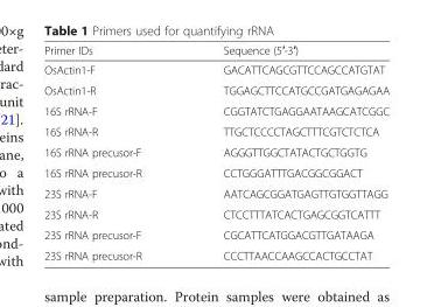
<table><thead><tr><td>Primer IDs</td><td>Sequence (5′-3′)</td></tr></thead><tbody><tr><td>OsActin1-F</td><td>GACATTCAGCGTTCCAGCCATGTAT</td></tr><tr><td>OsActin1-R</td><td>TGGAGCTTCCATGCCGATGAGAGAA</td></tr><tr><td>16S rRNA-F</td><td>CGGTATCTGAGGAATAAGCATCGGC</td></tr><tr><td>16S rRNA-R</td><td>TTGCTCCCCTAGCTTTCGTCTCTCA</td></tr><tr><td>16S rRNA precusor-F</td><td>AGGGTTGGCTATACTGCTGGTG</td></tr><tr><td>16S rRNA precusor-R</td><td>CCTGGGATTTGACGGCGGACT</td></tr><tr><td>23S rRNA-F</td><td>AATCAGCGGATGAGTTGTGGTTAGG</td></tr><tr><td>23S rRNA-R</td><td>CTCCTTTATCACTGAGCGGTCATTT</td></tr><tr><td>23S rRNA precusor-F</td><td>CGCATTCATGGACGTTGATAAGA</td></tr><tr><td>23S rRNA precusor-R</td><td>CCCTTAACCAAGCCACTGCCTAT</td></tr></tbody></table>